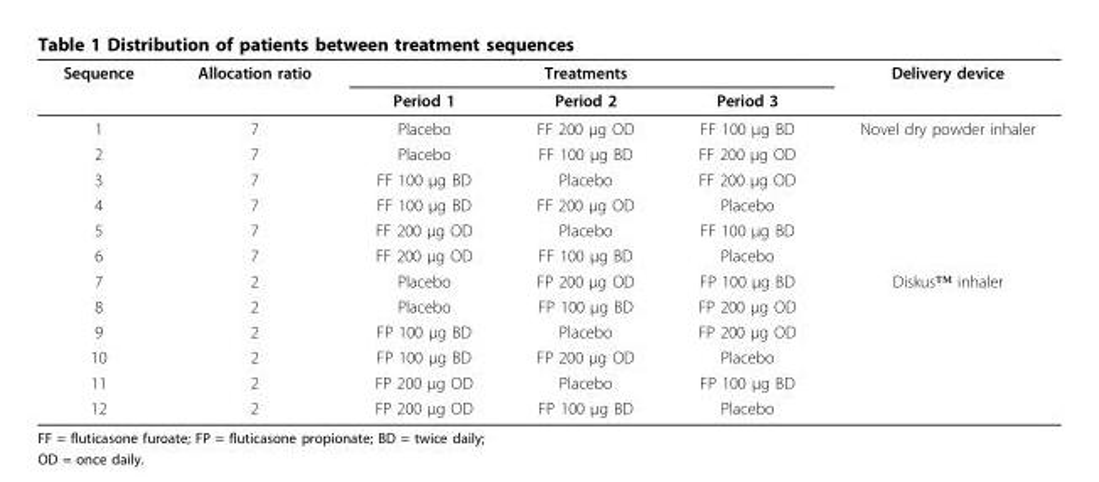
<table><thead><tr><td rowspan="2">Sequence</td><td rowspan="2">Allocation ratio</td><td colspan="3">Treatments</td><td rowspan="2">Delivery device</td></tr><tr><td>Period 1</td><td>Period 2</td><td>Period 3</td></tr></thead><tbody><tr><td>1</td><td>7</td><td>Placebo</td><td>FF 200 μg OD</td><td>FF 100 μg BD</td><td>Novel dry powder inhaler</td></tr><tr><td>2</td><td>7</td><td>Placebo</td><td>FF 100 μg BD</td><td>FF 200 μg OD</td><td></td></tr><tr><td>3</td><td>7</td><td>FF 100 μg BD</td><td>Placebo</td><td>FF 200 μg OD</td><td></td></tr><tr><td>4</td><td>7</td><td>FF 100 μg BD</td><td>FF 200 μg OD</td><td>Placebo</td><td></td></tr><tr><td>5</td><td>7</td><td>FF 200 μg OD</td><td>Placebo</td><td>FF 100 μg BD</td><td></td></tr><tr><td>6</td><td>7</td><td>FF 200 μg OD</td><td>FF 100 μg BD</td><td>Placebo</td><td></td></tr><tr><td>7</td><td>2</td><td>Placebo</td><td>FP 200 μg OD</td><td>FP 100 μg BD</td><td>Diskus™ inhaler</td></tr><tr><td>8</td><td>2</td><td>Placebo</td><td>FP 100 μg BD</td><td>FP 200 μg OD</td><td></td></tr><tr><td>9</td><td>2</td><td>FP 100 μg BD</td><td>Placebo</td><td>FP 200 μg OD</td><td></td></tr><tr><td>10</td><td>2</td><td>FP 100 μg BD</td><td>FP 200 μg OD</td><td>Placebo</td><td></td></tr><tr><td>11</td><td>2</td><td>FP 200 μg OD</td><td>Placebo</td><td>FP 100 μg BD</td><td></td></tr><tr><td>12</td><td>2</td><td>FP 200 μg OD</td><td>FP 100 μg BD</td><td>Placebo</td><td></td></tr></tbody></table>